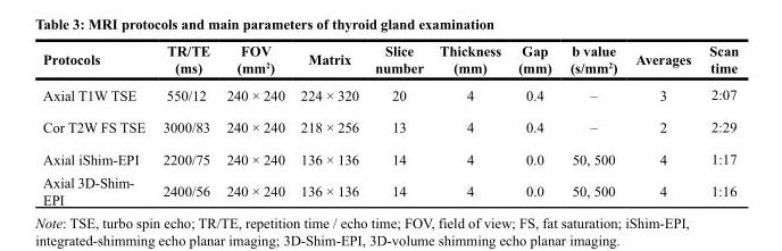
<table><thead><tr><td>Protocols</td><td>TR/TE (ms)</td><td>FOV (mm<sup>2</sup>)</td><td>Matrix</td><td>Slice number</td><td>Thickness (mm)</td><td>Gap (mm)</td><td>b value (s/mm<sup>2</sup>)</td><td>Averages</td><td>Scan time</td></tr></thead><tbody><tr><td>Axial T1W TSE</td><td>550/12</td><td>240 × 240</td><td>224 × 320</td><td>20</td><td>4</td><td>0.4</td><td>–</td><td>3</td><td>2:07</td></tr><tr><td>Cor T2W FS TSE</td><td>3000/83</td><td>240 × 240</td><td>218 × 256</td><td>13</td><td>4</td><td>0.4</td><td>–</td><td>2</td><td>2:29</td></tr><tr><td>Axial iShimEPI</td><td>2200/75</td><td>240 × 240</td><td>136 × 136</td><td>14</td><td>4</td><td>0.0</td><td>50, 500</td><td>4</td><td>1:17</td></tr><tr><td>Axial 3DShim EPI</td><td>2400/56</td><td>240 × 240</td><td>136 × 136</td><td>14</td><td>4</td><td>0.0</td><td>50, 500</td><td>4</td><td>1:16</td></tr></tbody></table>